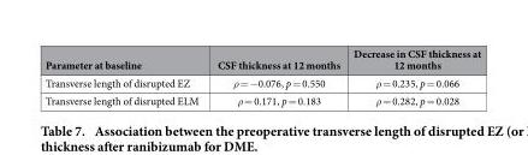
<table><thead><tr><td>Parameter at baseline</td><td>CSF thickness at 12 months</td><td>Decrease in CSF thickness at 12 months</td></tr></thead><tbody><tr><td>Transverse length of disrupted EZ</td><td>ρ = − 0.076, p = 0.550</td><td>ρ = 0.235, p = 0.066</td></tr><tr><td>Transverse length of disrupted ELM</td><td>ρ = 0.171, p = 0.183</td><td>ρ = 0.282, p = 0.028</td></tr></tbody></table>